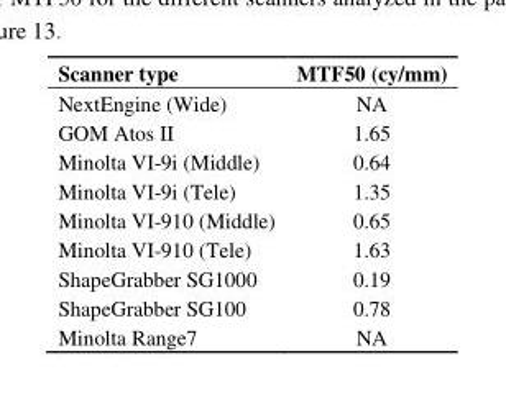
<table><thead><tr><td>Scanner type</td><td>MTF50 (cy/mm)</td></tr></thead><tbody><tr><td>NextEngine (Wide)</td><td>NA</td></tr><tr><td>GOM Atos II</td><td>1.65</td></tr><tr><td>Minolta VI-9i (Middle)</td><td>0.64</td></tr><tr><td>Minolta VI-9i (Tele)</td><td>1.35</td></tr><tr><td>Minolta VI-910 (Middle)</td><td>0.65</td></tr><tr><td>Minolta VI-910 (Tele)</td><td>1.63</td></tr><tr><td>ShapeGrabber SG1000</td><td>0.19</td></tr><tr><td>ShapeGrabber SG100</td><td>0.78</td></tr><tr><td>Minolta Range7</td><td>NA</td></tr></tbody></table>